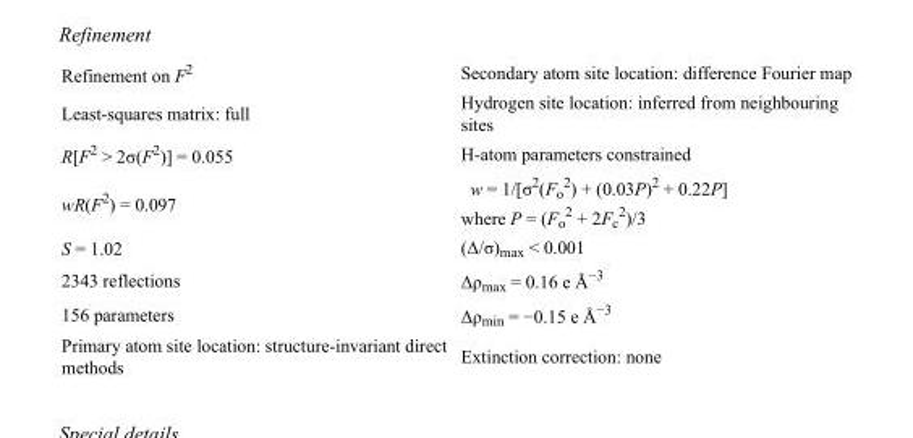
<table><tbody><tr><td>Refinement on F<sup>2</sup></td><td>Secondary atom site location: difference Fourier map</td></tr><tr><td>Least-squares matrix: full</td><td>Hydrogen site location: inferred from neighbouring sites</td></tr><tr><td>R[F<sup>2</sup> &gt; 2σ(F<sup>2</sup>)] = 0.055</td><td>H-atom parameters constrained</td></tr><tr><td>wR(F<sup>2</sup>) = 0.097</td><td>w = 1/[σ<sup>2</sup>(F<sub>o</sub> <sup>2</sup>) + (0.03P)<sup>2</sup> + 0.22P] where P = (F<sub>o</sub> <sup>2</sup> + 2F<sub>c</sub> <sup>2</sup>)/3</td></tr><tr><td>S = 1.02</td><td>(Δ/σ)<sub>max</sub> &lt; 0.001</td></tr><tr><td>2343 reflections</td><td>Δρ<sub>max</sub> = 0.16 e Å<sup>−3</sup></td></tr><tr><td>156 parameters</td><td>Δρ<sub>min</sub> = −0.15 e Å<sup>−3</sup></td></tr><tr><td>Primary atom site location: structure-invariant direct methods</td><td>Extinction correction: none</td></tr></tbody></table>